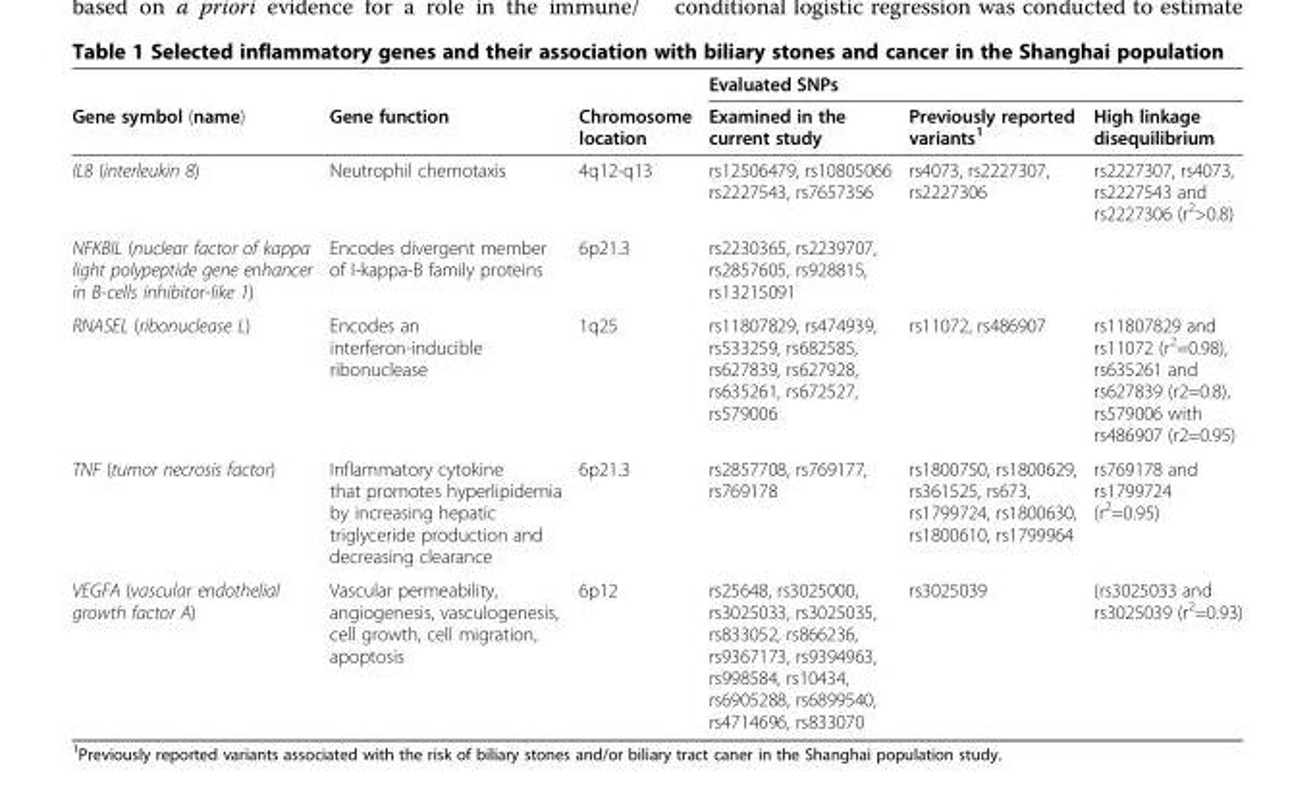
<table><thead><tr><td rowspan="2">Gene symbol (name)</td><td rowspan="2">Gene function</td><td rowspan="2">Chromosome location</td><td colspan="3">Evaluated SNPs</td></tr><tr><td>Examined in the current study</td><td>Previously reported variants<sup>1</sup></td><td>High linkage disequilibrium</td></tr></thead><tbody><tr><td>IL8 (interleukin 8)</td><td>Neutrophil chemotaxis</td><td>4q12-q13</td><td>rs12506479, rs10805066 rs2227543, rs7657356</td><td>rs4073, rs2227307, rs2227306</td><td>rs2227307, rs4073, rs2227543 and rs2227306 (r<sup>2</sup>&gt;0.8)</td></tr><tr><td>NFKBIL (nuclear factor of kappa light polypeptide gene enhancer in B-cells inhibitor-like 1)</td><td>Encodes divergent member of I-kappa-B family proteins</td><td>6p21.3</td><td>rs2230365, rs2239707, rs2857605, rs928815, rs13215091</td><td></td><td></td></tr><tr><td>RNASEL (ribonuclease L)</td><td>Encodes an interferon-inducible ribonuclease</td><td>1q25</td><td>rs11807829, rs474939, rs533259, rs682585, rs627839, rs627928, rs635261, rs672527, rs579006</td><td>rs11072, rs486907</td><td>rs11807829 and rs11072 (r<sup>2</sup>=0.98), rs635261 and rs627839 (r2=0.8), rs579006 with rs486907 (r2=0.95)</td></tr><tr><td>TNF (tumor necrosis factor)</td><td>Inflammatory cytokine that promotes hyperlipidemia by increasing hepatic triglyceride production and decreasing clearance</td><td>6p21.3</td><td>rs2857708, rs769177, rs769178</td><td>rs1800750, rs1800629, rs361525, rs673, rs1799724, rs1800630, rs1800610, rs1799964</td><td>rs769178 and rs1799724 (r<sup>2</sup>=0.95)</td></tr><tr><td>VEGFA (vascular endothelial growth factor A)</td><td>Vascular permeability, angiogenesis, vasculogenesis, cell growth, cell migration, apoptosis</td><td>6p12</td><td>rs25648, rs3025000, rs3025033, rs3025035, rs833052, rs866236, rs9367173, rs9394963, rs998584, rs10434, rs6905288, rs6899540, rs4714696, rs833070</td><td>rs3025039</td><td>(rs3025033 and rs3025039 (r<sup>2</sup>=0.93)</td></tr></tbody></table>